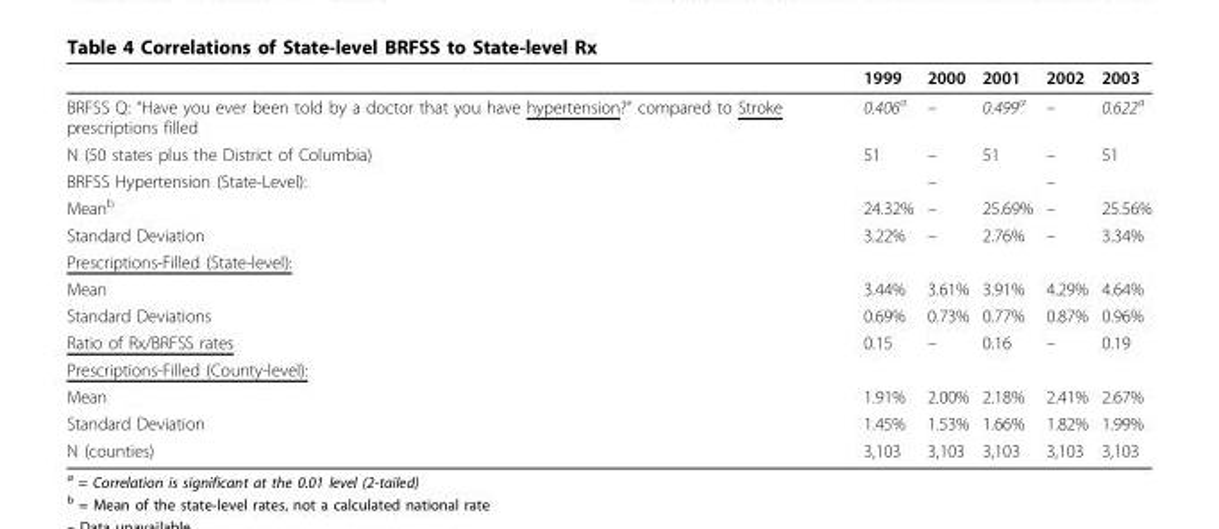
<table><thead><tr><td></td><td>1999</td><td>2000</td><td>2001</td><td>2002</td><td>2003</td></tr></thead><tbody><tr><td>BRFSS Q: “Have you ever been told by a doctor that you have hypertension?” compared to Stroke prescriptions filled</td><td>0.406<sup>a</sup></td><td>–</td><td>0.499<sup>a</sup></td><td>–</td><td>0.622<sup>a</sup></td></tr><tr><td>N (50 states plus the District of Columbia)</td><td>51</td><td>–</td><td>51</td><td>–</td><td>51</td></tr><tr><td>BRFSS Hypertension (State-Level):</td><td></td><td>–</td><td></td><td>–</td><td></td></tr><tr><td>Mean<sup>b</sup></td><td>24.32%</td><td>–</td><td>25.69%</td><td>–</td><td>25.56%</td></tr><tr><td>Standard Deviation</td><td>3.22%</td><td>–</td><td>2.76%</td><td>–</td><td>3.34%</td></tr><tr><td colspan="6">Prescriptions-Filled (State-level):</td></tr><tr><td>Mean</td><td>3.44%</td><td>3.61%</td><td>3.91%</td><td>4.29%</td><td>4.64%</td></tr><tr><td>Standard Deviations</td><td>0.69%</td><td>0.73%</td><td>0.77%</td><td>0.87%</td><td>0.96%</td></tr><tr><td>Ratio of Rx/BRFSS rates</td><td>0.15</td><td>–</td><td>0.16</td><td>–</td><td>0.19</td></tr><tr><td colspan="6">Prescriptions-Filled (County-level):</td></tr><tr><td>Mean</td><td>1.91%</td><td>2.00%</td><td>2.18%</td><td>2.41%</td><td>2.67%</td></tr><tr><td>Standard Deviation</td><td>1.45%</td><td>1.53%</td><td>1.66%</td><td>1.82%</td><td>1.99%</td></tr><tr><td>N (counties)</td><td>3,103</td><td>3,103</td><td>3,103</td><td>3,103</td><td>3,103</td></tr></tbody></table>